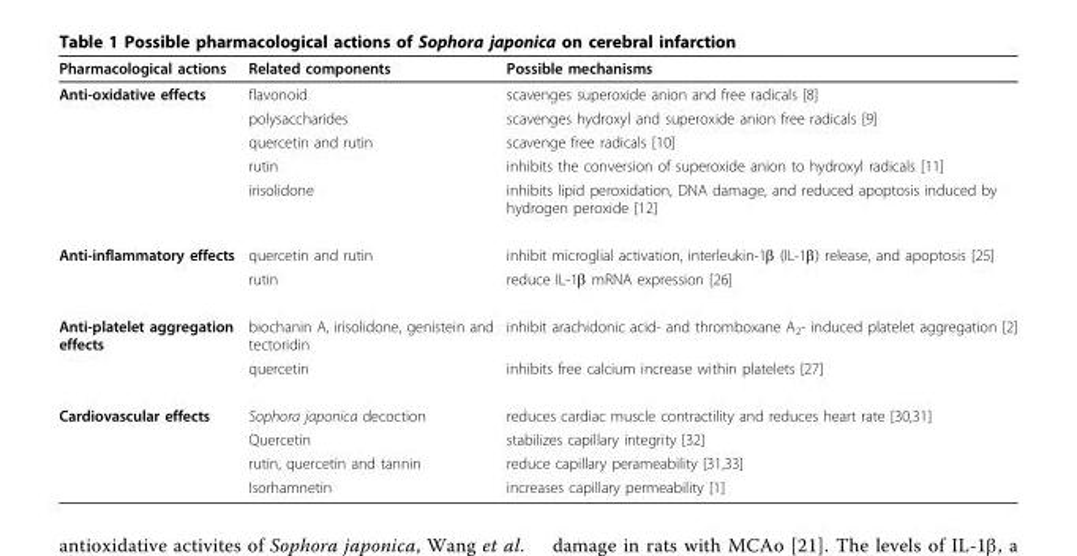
<table><thead><tr><td>Pharmacological actions</td><td>Related components</td><td>Possible mechanisms</td></tr></thead><tbody><tr><td rowspan="5">Anti-oxidative effects</td><td>flavonoid</td><td>scavenges superoxide anion and free radicals [8]</td></tr><tr><td>polysaccharides</td><td>scavenges hydroxyl and superoxide anion free radicals [9]</td></tr><tr><td>quercetin and rutin</td><td>scavenge free radicals [10]</td></tr><tr><td>rutin</td><td>inhibits the conversion of superoxide anion to hydroxyl radicals [11]</td></tr><tr><td>irisolidone</td><td>inhibits lipid peroxidation, DNA damage, and reduced apoptosis induced by hydrogen peroxide [12]</td></tr><tr><td rowspan="2">Anti-inflammatory effects</td><td>quercetin and rutin</td><td>inhibit microglial activation, interleukin-1β (IL-1β) release, and apoptosis [25]</td></tr><tr><td>rutin</td><td>reduce IL-1β mRNA expression [26]</td></tr><tr><td rowspan="2">Anti-platelet aggregation effects</td><td>biochanin A, irisolidone, genistein and tectoridin</td><td>inhibit arachidonic acid- and thromboxane A<sub>2</sub>- induced platelet aggregation [2]</td></tr><tr><td>quercetin</td><td>inhibits free calcium increase within platelets [27]</td></tr><tr><td rowspan="4">Cardiovascular effects</td><td>Sophora japonica decoction</td><td>reduces cardiac muscle contractility and reduces heart rate [30,31]</td></tr><tr><td>Quercetin</td><td>stabilizes capillary integrity [32]</td></tr><tr><td>rutin, quercetin and tannin</td><td>reduce capillary perameability [31,33]</td></tr><tr><td>Isorhamnetin</td><td>increases capillary permeability [1]</td></tr></tbody></table>